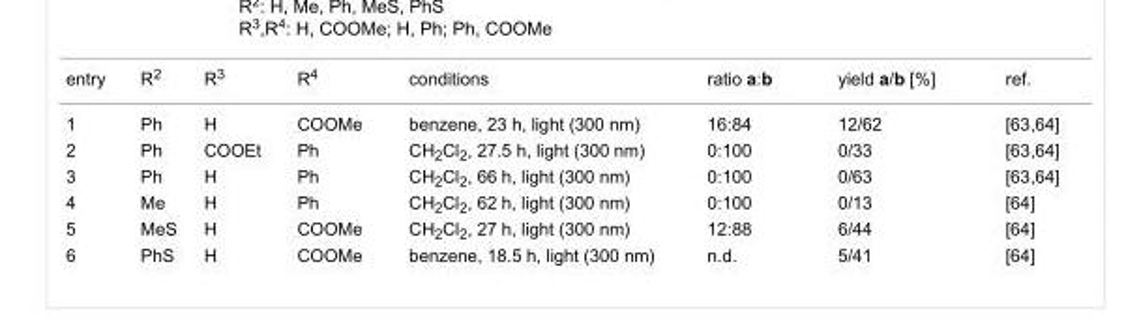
<table><tbody><tr><td>entry</td><td>R<sup>2</sup></td><td>R<sup>3</sup></td><td>R<sup>4</sup></td><td>conditions</td><td>ratio a:b</td><td>yield a/b [%]</td><td>ref.</td></tr><tr><td>1</td><td>Ph</td><td>H</td><td>COOMe</td><td>benzene, 23 h, light (300 nm)</td><td>16:84</td><td>12/62</td><td>[63–64]</td></tr><tr><td>2</td><td>Ph</td><td>COOEt</td><td>Ph</td><td>CH<sub>2</sub>Cl<sub>2</sub>, 27.5 h, light (300 nm)</td><td>0:100</td><td>0/33</td><td>[63–64]</td></tr><tr><td>3</td><td>Ph</td><td>H</td><td>Ph</td><td>CH<sub>2</sub>Cl<sub>2</sub>, 66 h, light (300 nm)</td><td>0:100</td><td>0/63</td><td>[63–64]</td></tr><tr><td>4</td><td>Me</td><td>H</td><td>Ph</td><td>CH<sub>2</sub>Cl<sub>2</sub>, 62 h, light (300 nm)</td><td>0:100</td><td>0/13</td><td>[64]</td></tr><tr><td>5</td><td>MeS</td><td>H</td><td>COOMe</td><td>CH<sub>2</sub>Cl<sub>2</sub>, 27 h, light (300 nm)</td><td>12:88</td><td>6/44</td><td>[64]</td></tr><tr><td>6</td><td>PhS</td><td>H</td><td>COOMe</td><td>benzene, 18.5 h, light (300 nm)</td><td>n.d.</td><td>5/41</td><td>[64]</td></tr></tbody></table>